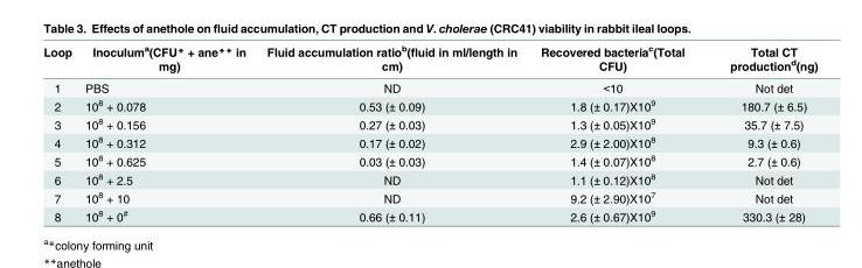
<table><thead><tr><td>Loop</td><td>Inoculum<sup>a</sup>(CFU* + ane** in mg)</td><td>Fluid accumulation ratio<sup>b</sup>(fluid in ml/length in cm)</td><td>Recovered bacteria<sup>c</sup>(Total CFU)</td><td>Total CT production<sup>d</sup>(ng)</td></tr></thead><tbody><tr><td>1</td><td>PBS</td><td>ND</td><td>&lt;10</td><td>Not det</td></tr><tr><td>2</td><td>10<sup>8</sup> + 0.078</td><td>0.53 (± 0.09)</td><td>1.8 (± 0.17)X10<sup>9</sup></td><td>180.7 (± 6.5)</td></tr><tr><td>3</td><td>10<sup>8</sup> + 0.156</td><td>0.27 (± 0.03)</td><td>1.3 (± 0.05)X10<sup>9</sup></td><td>35.7 (± 7.5)</td></tr><tr><td>4</td><td>10<sup>8</sup> + 0.312</td><td>0.17 (± 0.02)</td><td>2.9 (± 2.00)X10<sup>8</sup></td><td>9.3 (± 0.6)</td></tr><tr><td>5</td><td>10<sup>8</sup> + 0.625</td><td>0.03 (± 0.03)</td><td>1.4 (± 0.07)X10<sup>8</sup></td><td>2.7 (± 0.6)</td></tr><tr><td>6</td><td>10<sup>8</sup> + 2.5</td><td>ND</td><td>1.1 (± 0.12)X10<sup>8</sup></td><td>Not det</td></tr><tr><td>7</td><td>10<sup>8</sup> + 10</td><td>ND</td><td>9.2 (± 2.90)X10<sup>7</sup></td><td>Not det</td></tr><tr><td>8</td><td>10<sup>8</sup> + 0<sup>#</sup></td><td>0.66 (± 0.11)</td><td>2.6 (± 0.67)X10<sup>9</sup></td><td>330.3 (± 28)</td></tr></tbody></table>